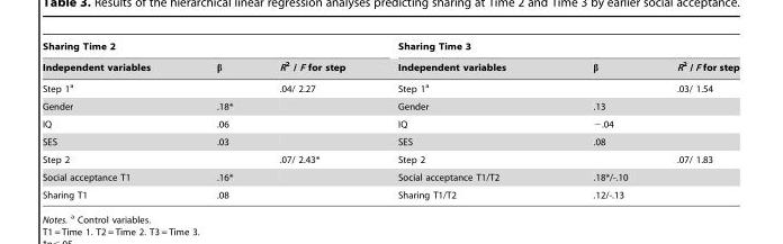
<table><thead><tr><td colspan="3">Sharing Time 2</td><td colspan="3">Sharing Time 3</td></tr><tr><td>Independent variables</td><td>β</td><td>R<sup>2</sup> / F for step</td><td>Independent variables</td><td>β</td><td>R<sup>2</sup> / F for step</td></tr></thead><tbody><tr><td>Step 1<sup>a</sup></td><td></td><td>.04/ 2.27</td><td>Step 1<sup>a</sup></td><td></td><td>.03/ 1.54</td></tr><tr><td>Gender</td><td>.18*</td><td></td><td>Gender</td><td>.13</td><td></td></tr><tr><td>IQ</td><td>.06</td><td></td><td>IQ</td><td>−.04</td><td></td></tr><tr><td>SES</td><td>.03</td><td></td><td>SES</td><td>.08</td><td></td></tr><tr><td>Step 2</td><td></td><td>.07/ 2.43*</td><td>Step 2</td><td></td><td>.07/ 1.83</td></tr><tr><td>Social acceptance T1</td><td>.16*</td><td></td><td>Social acceptance T1/T2</td><td>.18*/-.10</td><td></td></tr><tr><td>Sharing T1</td><td>.08</td><td></td><td>Sharing T1/T2</td><td>.12/-.13</td><td></td></tr></tbody></table>